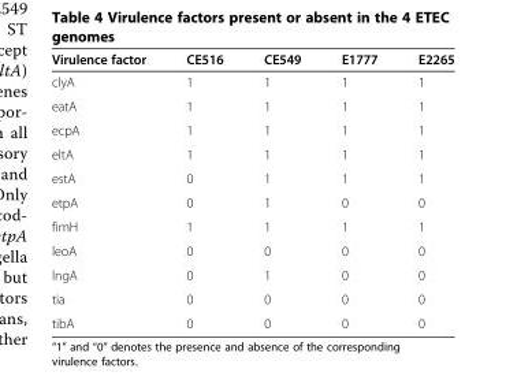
<table><thead><tr><td>Virulence factor</td><td>CE516</td><td>CE549</td><td>E1777</td><td>E2265</td></tr></thead><tbody><tr><td>clyA</td><td>1</td><td>1</td><td>1</td><td>1</td></tr><tr><td>eatA</td><td>1</td><td>1</td><td>1</td><td>1</td></tr><tr><td>ecpA</td><td>1</td><td>1</td><td>1</td><td>1</td></tr><tr><td>eltA</td><td>1</td><td>1</td><td>1</td><td>1</td></tr><tr><td>estA</td><td>0</td><td>1</td><td>1</td><td>1</td></tr><tr><td>etpA</td><td>0</td><td>1</td><td>0</td><td>0</td></tr><tr><td>fimH</td><td>1</td><td>1</td><td>1</td><td>1</td></tr><tr><td>leoA</td><td>0</td><td>0</td><td>0</td><td>0</td></tr><tr><td>lngA</td><td>0</td><td>1</td><td>0</td><td>0</td></tr><tr><td>tia</td><td>0</td><td>0</td><td>0</td><td>0</td></tr><tr><td>tibA</td><td>0</td><td>0</td><td>0</td><td>0</td></tr></tbody></table>